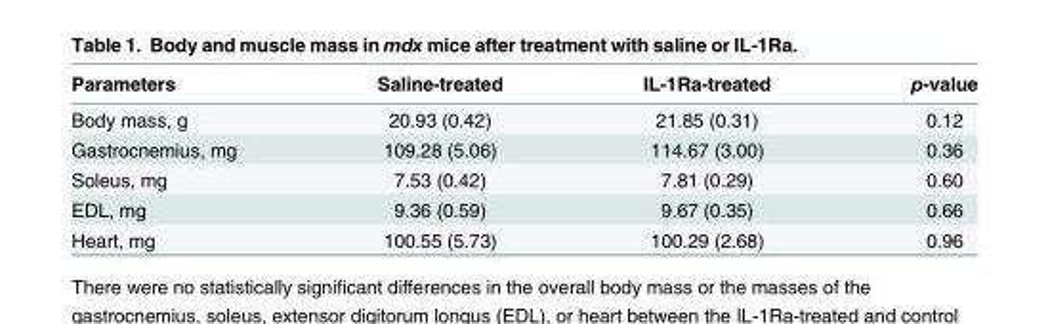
<table><thead><tr><td>Parameters</td><td>Saline-treated</td><td>IL-1Ra-treated</td><td>p-value</td></tr></thead><tbody><tr><td>Body mass, g</td><td>20.93 (0.42)</td><td>21.85 (0.31)</td><td>0.12</td></tr><tr><td>Gastrocnemius, mg</td><td>109.28 (5.06)</td><td>114.67 (3.00)</td><td>0.36</td></tr><tr><td>Soleus, mg</td><td>7.53 (0.42)</td><td>7.81 (0.29)</td><td>0.60</td></tr><tr><td>EDL, mg</td><td>9.36 (0.59)</td><td>9.67 (0.35)</td><td>0.66</td></tr><tr><td>Heart, mg</td><td>100.55 (5.73)</td><td>100.29 (2.68)</td><td>0.96</td></tr></tbody></table>